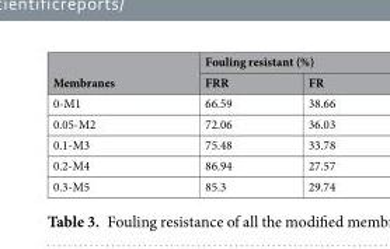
<table><thead><tr><td rowspan="2">Membranes</td><td colspan="2">Fouling resistant (%)</td></tr><tr><td>FRR</td><td>FR</td></tr></thead><tbody><tr><td>0-M1</td><td>66.59</td><td>38.66</td></tr><tr><td>0.05-M2</td><td>72.06</td><td>36.03</td></tr><tr><td>0.1-M3</td><td>75.48</td><td>33.78</td></tr><tr><td>0.2-M4</td><td>86.94</td><td>27.57</td></tr><tr><td>0.3-M5</td><td>85.3</td><td>29.74</td></tr></tbody></table>